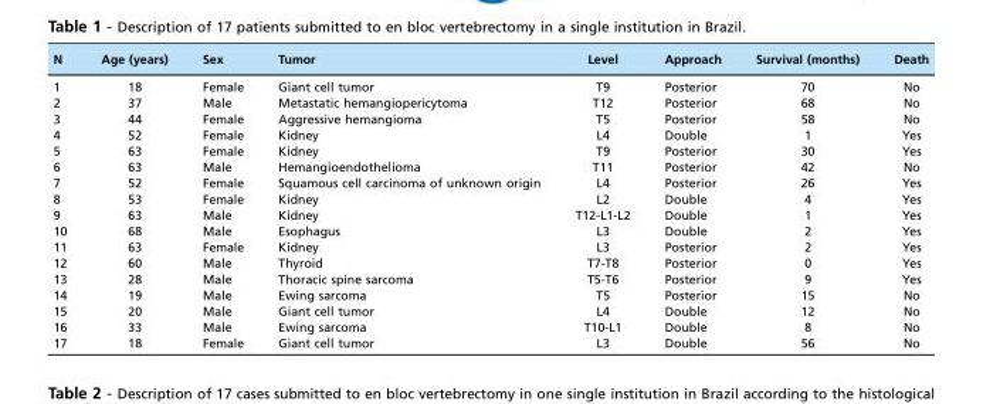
<table><thead><tr><td>N</td><td>Age (years)</td><td>Sex</td><td>Tumor</td><td>Level</td><td>Approach</td><td>Survival (months)</td><td>Death</td></tr></thead><tbody><tr><td>1</td><td>18</td><td>Female</td><td>Giant cell tumor</td><td>T9</td><td>Posterior</td><td>70</td><td>No</td></tr><tr><td>2</td><td>37</td><td>Male</td><td>Metastatic hemangiopericytoma</td><td>T12</td><td>Posterior</td><td>68</td><td>No</td></tr><tr><td>3</td><td>44</td><td>Female</td><td>Aggressive hemangioma</td><td>T5</td><td>Posterior</td><td>58</td><td>No</td></tr><tr><td>4</td><td>52</td><td>Female</td><td>Kidney</td><td>L4</td><td>Double</td><td>1</td><td>Yes</td></tr><tr><td>5</td><td>63</td><td>Female</td><td>Kidney</td><td>T9</td><td>Posterior</td><td>30</td><td>Yes</td></tr><tr><td>6</td><td>63</td><td>Male</td><td>Hemangioendothelioma</td><td>T11</td><td>Posterior</td><td>42</td><td>No</td></tr><tr><td>7</td><td>52</td><td>Female</td><td>Squamous cell carcinoma of unknown origin</td><td>L4</td><td>Posterior</td><td>26</td><td>Yes</td></tr><tr><td>8</td><td>53</td><td>Female</td><td>Kidney</td><td>L2</td><td>Double</td><td>4</td><td>Yes</td></tr><tr><td>9</td><td>63</td><td>Male</td><td>Kidney</td><td>T12-L1-L2</td><td>Double</td><td>1</td><td>Yes</td></tr><tr><td>10</td><td>68</td><td>Male</td><td>Esophagus</td><td>L3</td><td>Double</td><td>2</td><td>Yes</td></tr><tr><td>11</td><td>63</td><td>Female</td><td>Kidney</td><td>L3</td><td>Posterior</td><td>2</td><td>Yes</td></tr><tr><td>12</td><td>60</td><td>Male</td><td>Thyroid</td><td>T7-T8</td><td>Posterior</td><td>0</td><td>Yes</td></tr><tr><td>13</td><td>28</td><td>Male</td><td>Thoracic spine sarcoma</td><td>T5-T6</td><td>Posterior</td><td>9</td><td>Yes</td></tr><tr><td>14</td><td>19</td><td>Male</td><td>Ewing sarcoma</td><td>T5</td><td>Posterior</td><td>15</td><td>No</td></tr><tr><td>15</td><td>20</td><td>Male</td><td>Giant cell tumor</td><td>L4</td><td>Double</td><td>12</td><td>No</td></tr><tr><td>16</td><td>33</td><td>Male</td><td>Ewing sarcoma</td><td>T10-L1</td><td>Double</td><td>8</td><td>No</td></tr><tr><td>17</td><td>18</td><td>Female</td><td>Giant cell tumor</td><td>L3</td><td>Double</td><td>56</td><td>No</td></tr></tbody></table>